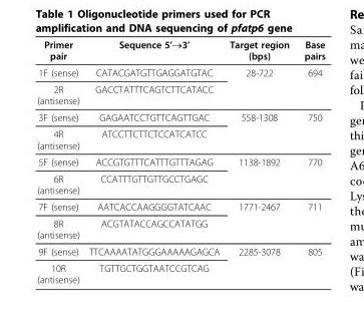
<table><thead><tr><td>Primer pair</td><td>Sequence 5’→3’</td><td>Target region (bps)</td><td>Base pairs</td></tr></thead><tbody><tr><td>1F (sense)</td><td>CATACGATGTTGAGGATGTAC</td><td>28-722</td><td>694</td></tr><tr><td>2R (antisense)</td><td>GACCTATTTCAGTCTTCATACC</td><td></td><td></td></tr><tr><td>3F (sense)</td><td>GAGAATCCTGTTCAGTTGAC</td><td>558-1308</td><td>750</td></tr><tr><td>4R (antisense)</td><td>ATCCTTCTTCTCCATCATCC</td><td></td><td></td></tr><tr><td>5F (sense)</td><td>ACCGTGTTTCATTTGTTTAGAG</td><td>1138-1892</td><td>770</td></tr><tr><td>6R (antisense)</td><td>CCATTTGTTGTTGCCTGAGC</td><td></td><td></td></tr><tr><td>7F (sense)</td><td>AATCACCAAGGGGTATCAAC</td><td>1771-2467</td><td>711</td></tr><tr><td>8R (antisense)</td><td>ACGTATACCAGCCATATGG</td><td></td><td></td></tr><tr><td>9F (sense)</td><td>TTCAAAATATGGGAAAAAGAGCA</td><td>2285-3078</td><td>805</td></tr><tr><td>10R (antisense)</td><td>TGTTGCTGGTAATCCGTCAG</td><td></td><td></td></tr></tbody></table>